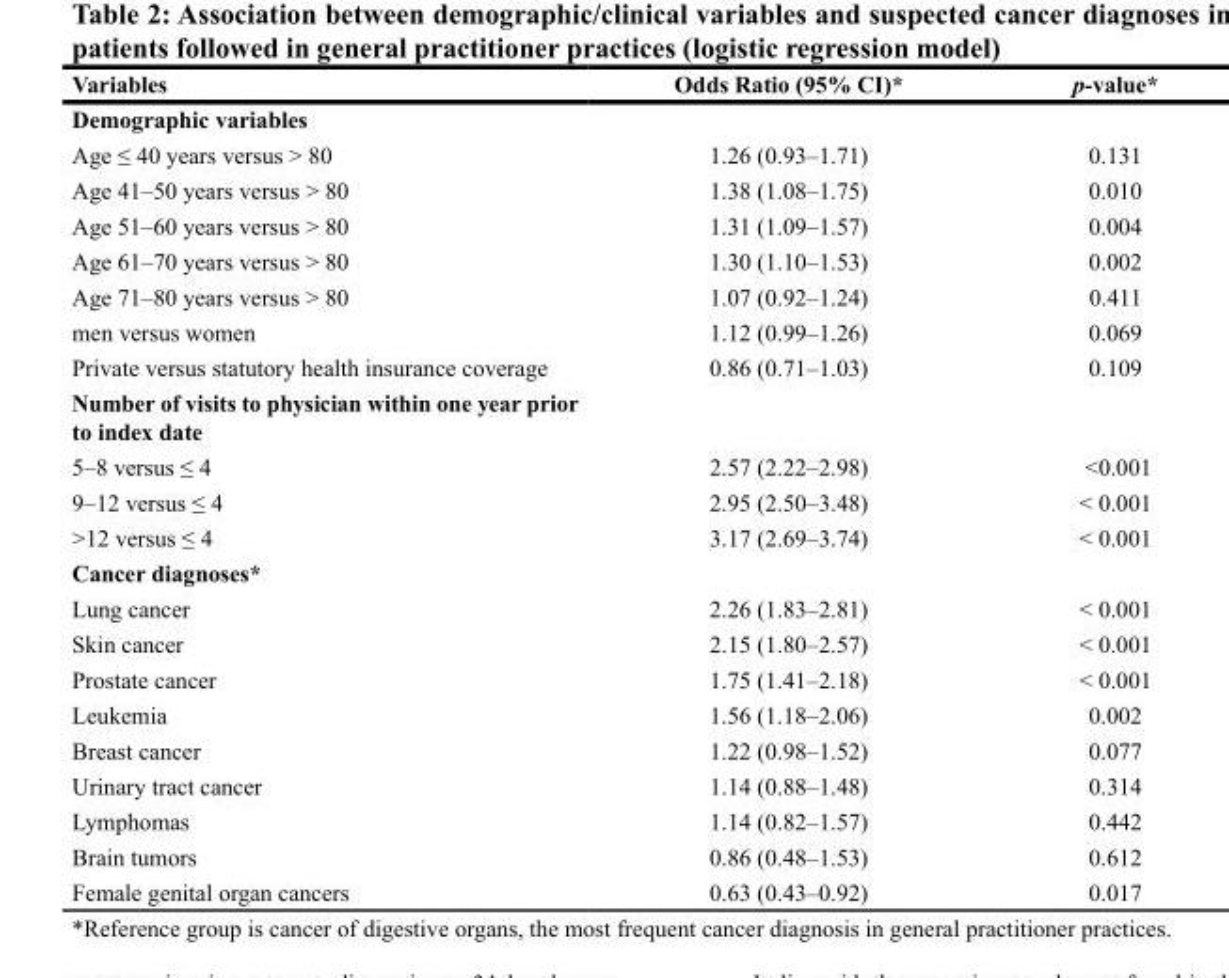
<table><thead><tr><td>Variables</td><td>Odds Ratio (95% CI)*</td><td>p-value*</td></tr></thead><tbody><tr><td colspan="3">Demographic variables</td></tr><tr><td>Age ≤ 40 years versus &gt; 80</td><td>1.26 (0.93–1.71)</td><td>0.131</td></tr><tr><td>Age 41–50 years versus &gt; 80</td><td>1.38 (1.08–1.75)</td><td>0.010</td></tr><tr><td>Age 51–60 years versus &gt; 80</td><td>1.31 (1.09–1.57)</td><td>0.004</td></tr><tr><td>Age 61–70 years versus &gt; 80</td><td>1.30 (1.10–1.53)</td><td>0.002</td></tr><tr><td>Age 71–80 years versus &gt; 80</td><td>1.07 (0.92–1.24)</td><td>0.411</td></tr><tr><td>men versus women</td><td>1.12 (0.99–1.26)</td><td>0.069</td></tr><tr><td>Private versus statutory health insurance coverage</td><td>0.86 (0.71–1.03)</td><td>0.109</td></tr><tr><td colspan="3">Number of visits to physician within one year prior to index date</td></tr><tr><td>5–8 versus ≤ 4</td><td>2.57 (2.22–2.98)</td><td>&lt;0.001</td></tr><tr><td>9–12 versus ≤ 4</td><td>2.95 (2.50–3.48)</td><td>&lt; 0.001</td></tr><tr><td>&gt;12 versus ≤ 4</td><td>3.17 (2.69–3.74)</td><td>&lt; 0.001</td></tr><tr><td colspan="3">Cancer diagnoses*</td></tr><tr><td>Lung cancer</td><td>2.26 (1.83–2.81)</td><td>&lt; 0.001</td></tr><tr><td>Skin cancer</td><td>2.15 (1.80–2.57)</td><td>&lt; 0.001</td></tr><tr><td>Prostate cancer</td><td>1.75 (1.41–2.18)</td><td>&lt; 0.001</td></tr><tr><td>Leukemia</td><td>1.56 (1.18–2.06)</td><td>0.002</td></tr><tr><td>Breast cancer</td><td>1.22 (0.98–1.52)</td><td>0.077</td></tr><tr><td>Urinary tract cancer</td><td>1.14 (0.88–1.48)</td><td>0.314</td></tr><tr><td>Lymphomas</td><td>1.14 (0.82–1.57)</td><td>0.442</td></tr><tr><td>Brain tumors</td><td>0.86 (0.48–1.53)</td><td>0.612</td></tr><tr><td>Female genital organ cancers</td><td>0.63 (0.43–0.92)</td><td>0.017</td></tr></tbody></table>